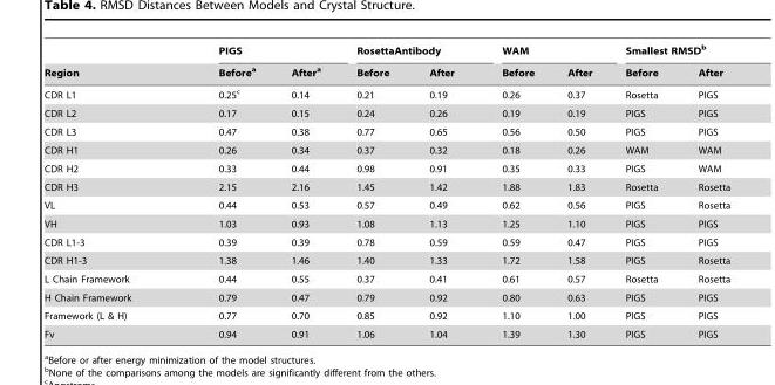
<table><thead><tr><td rowspan="2">Region</td><td colspan="2">PIGS</td><td colspan="2">RosettaAntibody</td><td colspan="2">WAM</td><td colspan="2">Smallest RMSD<sup>b</sup></td></tr><tr><td>Before<sup>a</sup></td><td>After<sup>a</sup></td><td>Before</td><td>After</td><td>Before</td><td>After</td><td>Before</td><td>After</td></tr></thead><tbody><tr><td>CDR L1</td><td>0.25<sup>c</sup></td><td>0.14</td><td>0.21</td><td>0.19</td><td>0.26</td><td>0.37</td><td>Rosetta</td><td>PIGS</td></tr><tr><td>CDR L2</td><td>0.17</td><td>0.15</td><td>0.24</td><td>0.26</td><td>0.19</td><td>0.19</td><td>PIGS</td><td>PIGS</td></tr><tr><td>CDR L3</td><td>0.47</td><td>0.38</td><td>0.77</td><td>0.65</td><td>0.56</td><td>0.50</td><td>PIGS</td><td>PIGS</td></tr><tr><td>CDR H1</td><td>0.26</td><td>0.34</td><td>0.37</td><td>0.32</td><td>0.18</td><td>0.26</td><td>WAM</td><td>WAM</td></tr><tr><td>CDR H2</td><td>0.33</td><td>0.44</td><td>0.98</td><td>0.91</td><td>0.35</td><td>0.33</td><td>PIGS</td><td>WAM</td></tr><tr><td>CDR H3</td><td>2.15</td><td>2.16</td><td>1.45</td><td>1.42</td><td>1.88</td><td>1.83</td><td>Rosetta</td><td>Rosetta</td></tr><tr><td>VL</td><td>0.44</td><td>0.53</td><td>0.57</td><td>0.49</td><td>0.62</td><td>0.56</td><td>PIGS</td><td>Rosetta</td></tr><tr><td>VH</td><td>1.03</td><td>0.93</td><td>1.08</td><td>1.13</td><td>1.25</td><td>1.10</td><td>PIGS</td><td>PIGS</td></tr><tr><td>CDR L1-3</td><td>0.39</td><td>0.39</td><td>0.78</td><td>0.59</td><td>0.59</td><td>0.47</td><td>PIGS</td><td>PIGS</td></tr><tr><td>CDR H1-3</td><td>1.38</td><td>1.46</td><td>1.40</td><td>1.33</td><td>1.72</td><td>1.58</td><td>PIGS</td><td>Rosetta</td></tr><tr><td>L Chain Framework</td><td>0.44</td><td>0.55</td><td>0.37</td><td>0.41</td><td>0.61</td><td>0.57</td><td>Rosetta</td><td>Rosetta</td></tr><tr><td>H Chain Framework</td><td>0.79</td><td>0.47</td><td>0.79</td><td>0.92</td><td>0.80</td><td>0.63</td><td>PIGS</td><td>PIGS</td></tr><tr><td>Framework (L &amp; H)</td><td>0.77</td><td>0.70</td><td>0.85</td><td>0.92</td><td>1.10</td><td>1.00</td><td>PIGS</td><td>PIGS</td></tr><tr><td>Fv</td><td>0.94</td><td>0.91</td><td>1.06</td><td>1.04</td><td>1.39</td><td>1.30</td><td>PIGS</td><td>PIGS</td></tr></tbody></table>